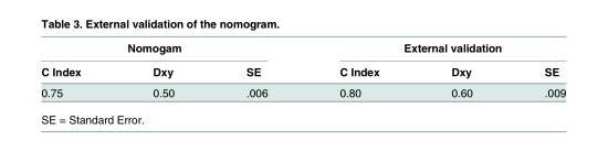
<table><thead><tr><td colspan="3">Nomogam</td><td colspan="3">External validation</td></tr><tr><td>C Index</td><td>Dxy</td><td>SE</td><td>C Index</td><td>Dxy</td><td>SE</td></tr></thead><tbody><tr><td>0.75</td><td>0.50</td><td>.006</td><td>0.80</td><td>0.60</td><td>.009</td></tr></tbody></table>